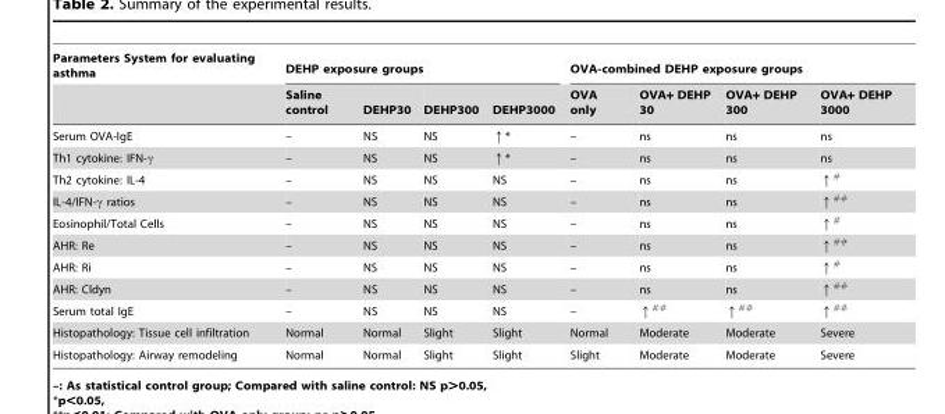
<table><thead><tr><td rowspan="2">Parameters System for evaluating asthma</td><td colspan="4">DEHP exposure groups</td><td colspan="4">OVA-combined DEHP exposure groups</td></tr><tr><td>Saline control</td><td>DEHP30</td><td>DEHP300</td><td>DEHP3000</td><td>OVA only</td><td>OVA+ DEHP 30</td><td>OVA+ DEHP 300</td><td>OVA+ DEHP 3000</td></tr></thead><tbody><tr><td>Serum OVA-IgE</td><td>–</td><td>NS</td><td>NS</td><td>↑*</td><td>–</td><td>ns</td><td>ns</td><td>ns</td></tr><tr><td>Th1 cytokine: IFN-γ</td><td>–</td><td>NS</td><td>NS</td><td>↑*</td><td>–</td><td>ns</td><td>ns</td><td>ns</td></tr><tr><td>Th2 cytokine: IL-4</td><td>–</td><td>NS</td><td>NS</td><td>NS</td><td>–</td><td>ns</td><td>ns</td><td>↑#</td></tr><tr><td>IL-4/IFN-γ ratios</td><td>–</td><td>NS</td><td>NS</td><td>NS</td><td>–</td><td>ns</td><td>ns</td><td>↑##</td></tr><tr><td>Eosinophil/Total Cells</td><td>–</td><td>NS</td><td>NS</td><td>NS</td><td>–</td><td>ns</td><td>ns</td><td>↑#</td></tr><tr><td>AHR: Re</td><td>–</td><td>NS</td><td>NS</td><td>NS</td><td>–</td><td>ns</td><td>ns</td><td>↑##</td></tr><tr><td>AHR: Ri</td><td>–</td><td>NS</td><td>NS</td><td>NS</td><td>–</td><td>ns</td><td>ns</td><td>↑#</td></tr><tr><td>AHR: Cldyn</td><td>–</td><td>NS</td><td>NS</td><td>NS</td><td>–</td><td>ns</td><td>ns</td><td>↑##</td></tr><tr><td>Serum total IgE</td><td>–</td><td>NS</td><td>NS</td><td>NS</td><td>–</td><td>↑##</td><td>↑##</td><td>↑##</td></tr><tr><td>Histopathology: Tissue cell infiltration</td><td>Normal</td><td>Normal</td><td>Slight</td><td>Slight</td><td>Normal</td><td>Moderate</td><td>Moderate</td><td>Severe</td></tr><tr><td>Histopathology: Airway remodeling</td><td>Normal</td><td>Normal</td><td>Slight</td><td>Slight</td><td>Slight</td><td>Moderate</td><td>Moderate</td><td>Severe</td></tr></tbody></table>